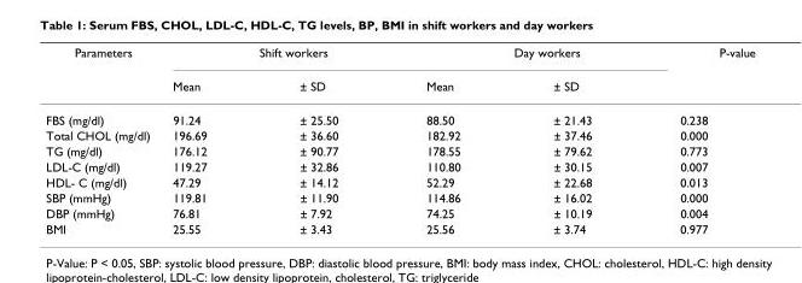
<table><thead><tr><td rowspan="2">Parameters</td><td colspan="2">Shift workers</td><td colspan="2">Day workers</td><td rowspan="2">P-value</td></tr><tr><td>Mean</td><td>± SD</td><td>Mean</td><td>± SD</td></tr></thead><tbody><tr><td>FBS (mg/dl)</td><td>91.24</td><td>± 25.50</td><td>88.50</td><td>± 21.43</td><td>0.238</td></tr><tr><td>Total CHOL (mg/dl)</td><td>196.69</td><td>± 36.60</td><td>182.92</td><td>± 37.46</td><td>0.000</td></tr><tr><td>TG (mg/dl)</td><td>176.12</td><td>± 90.77</td><td>178.55</td><td>± 79.62</td><td>0.773</td></tr><tr><td>LDL-C (mg/dl)</td><td>119.27</td><td>± 32.86</td><td>110.80</td><td>± 30.15</td><td>0.007</td></tr><tr><td>HDL- C (mg/dl)</td><td>47.29</td><td>± 14.12</td><td>52.29</td><td>± 22.68</td><td>0.013</td></tr><tr><td>SBP (mmHg)</td><td>119.81</td><td>± 11.90</td><td>114.86</td><td>± 16.02</td><td>0.000</td></tr><tr><td>DBP (mmHg)</td><td>76.81</td><td>± 7.92</td><td>74.25</td><td>± 10.19</td><td>0.004</td></tr><tr><td>BMI</td><td>25.55</td><td>± 3.43</td><td>25.56</td><td>± 3.74</td><td>0.977</td></tr></tbody></table>